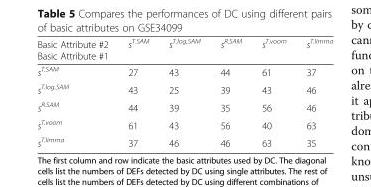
<table><thead><tr><td>Basic Attribute #2 Basic Attribute #1</td><td>s<sup>T.SAM</sup></td><td>s<sup>T.log.SAM</sup></td><td>s<sup>R.SAM</sup></td><td>s<sup>T.voom</sup></td><td>s<sup>T.limma</sup></td></tr></thead><tbody><tr><td>s<sup>T.SAM</sup></td><td>27</td><td>43</td><td>44</td><td>61</td><td>37</td></tr><tr><td>s<sup>T.log.SAM</sup></td><td>43</td><td>25</td><td>39</td><td>43</td><td>46</td></tr><tr><td>s<sup>R.SAM</sup></td><td>44</td><td>39</td><td>35</td><td>56</td><td>46</td></tr><tr><td>s<sup>T.voom</sup></td><td>61</td><td>43</td><td>56</td><td>40</td><td>63</td></tr><tr><td>s<sup>T.limma</sup></td><td>37</td><td>46</td><td>46</td><td>63</td><td>35</td></tr></tbody></table>